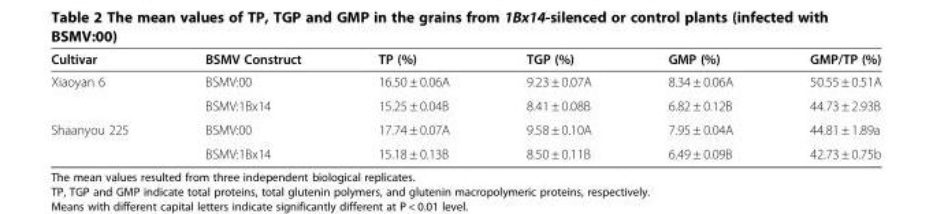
<table><thead><tr><td>Cultivar</td><td>BSMV Construct</td><td>TP (%)</td><td>TGP (%)</td><td>GMP (%)</td><td>GMP/TP (%)</td></tr></thead><tbody><tr><td rowspan="2">Xiaoyan 6</td><td>BSMV:00</td><td>16.50 ± 0.06A</td><td>9.23 ± 0.07A</td><td>8.34 ± 0.06A</td><td>50.55 ± 0.51A</td></tr><tr><td>BSMV:1Bx14</td><td>15.25 ± 0.04B</td><td>8.41 ± 0.08B</td><td>6.82 ± 0.12B</td><td>44.73 ± 2.93B</td></tr><tr><td rowspan="2">Shaanyou 225</td><td>BSMV:00</td><td>17.74 ± 0.07A</td><td>9.58 ± 0.10A</td><td>7.95 ± 0.04A</td><td>44.81 ± 1.89a</td></tr><tr><td>BSMV:1Bx14</td><td>15.18 ± 0.13B</td><td>8.50 ± 0.11B</td><td>6.49 ± 0.09B</td><td>42.73 ± 0.75b</td></tr></tbody></table>